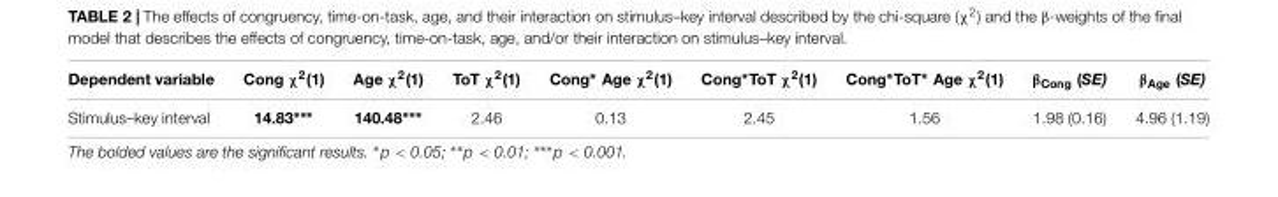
<table><thead><tr><td>Dependent variable</td><td>Cong χ<sup>2</sup>(1)</td><td>Age χ<sup>2</sup>(1)</td><td>ToT χ<sup>2</sup>(1)</td><td>Cong∗ Age χ<sup>2</sup>(1)</td><td>Cong∗ToT χ<sup>2</sup>(1)</td><td>Cong∗ToT∗ Age χ<sup>2</sup>(1)</td><td>β<sub>Cong</sub> (SE)</td><td>β<sub>Age</sub> (SE)</td></tr></thead><tbody><tr><td>Stimulus–key interval</td><td>14.83∗∗∗</td><td>140.48∗∗∗</td><td>2.46</td><td>0.13</td><td>2.45</td><td>1.56</td><td>1.98 (0.16)</td><td>4.96 (1.19)</td></tr></tbody></table>